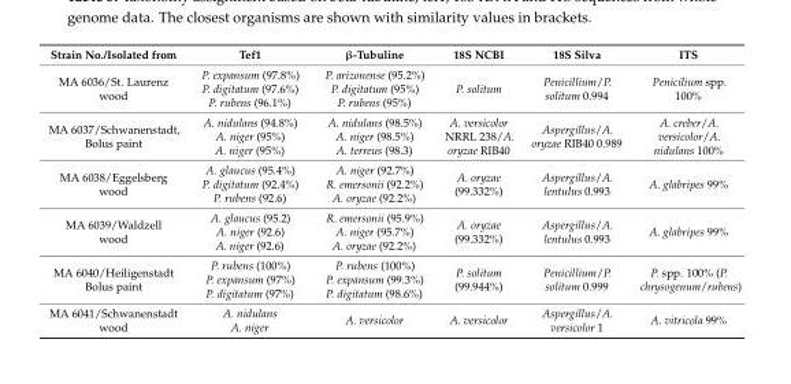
<table><thead><tr><td>Strain No./Isolated from</td><td>Tef1</td><td>β-Tubuline</td><td>18S NCBI</td><td>18S Silva</td><td>ITS</td></tr></thead><tbody><tr><td>MA 6036/St. Laurenz wood</td><td>P. expansum (97.8%) P. digitatum (97.6%) P. rubens (96.1%)</td><td>P. arizonense (95.2%) P. digitatum (95%) P. rubens (95%)</td><td>P. solitum</td><td>Penicillium/P. solitum 0.994</td><td>Penicilium spp. 100%</td></tr><tr><td>MA 6037/Schwanenstadt, Bolus paint</td><td>A. nidulans (94.8%) A. niger (95%) A. niger (95%)</td><td>A. nidulans (98.5%) A. niger (98.5%) A. terreus (98.3)</td><td>A. versicolor NRRL 238/A. oryzae RIB40</td><td>Aspergillus/A. oryzae RIB40 0.989</td><td>A. creber/A. versicolor/A. nidulans 100%</td></tr><tr><td>MA 6038/Eggelsberg wood</td><td>A. glaucus (95.4%) P. digitatum (92.4%) P. rubens (92.6)</td><td>A. niger (92.7%) R. emersonii (92.2%) A. oryzae (92.2%)</td><td>A. oryzae (99.332%)</td><td>Aspergillus/A. lentulus 0.993</td><td>A. glabripes 99%</td></tr><tr><td>MA 6039/Waldzell wood</td><td>A. glaucus (95.2) A. niger (92.6) A. niger (92.6)</td><td>R. emersonii (95.9%) A. niger (95.7%) A. oryzae (92.2%)</td><td>A. oryzae (99.332%)</td><td>Aspergillus/A. lentulus 0.993</td><td>A. glabripes 99%</td></tr><tr><td>MA 6040/Heiligenstadt Bolus paint</td><td>P. rubens (100%) P. expansum (97%) P. digitatum (97%)</td><td>P. rubens (100%) P. expansum (99.3%) P. digitatum (98.6%)</td><td>P. solitum (99.944%)</td><td>Penicillium/P. solitum 0.999</td><td>P. spp. 100% (P. chrysogenum/rubens)</td></tr><tr><td>MA 6041/Schwanenstadt wood</td><td>A. nidulans A. niger</td><td>A. versicolor</td><td>A. versicolor</td><td>Aspergillus/A. versicolor 1</td><td>A. vitricola 99%</td></tr></tbody></table>